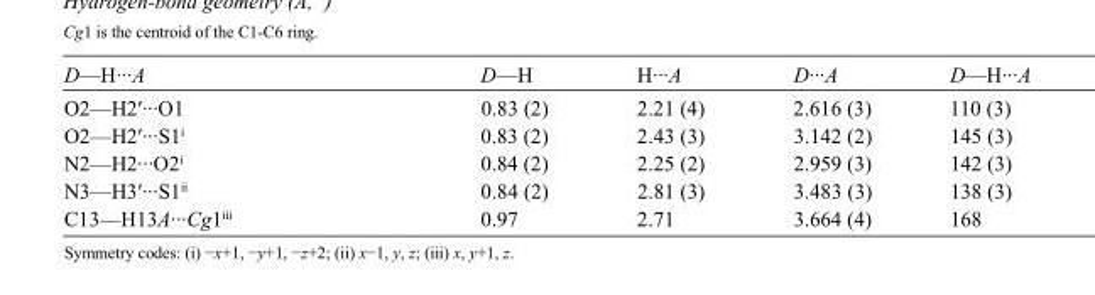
<table><tbody><tr><td>D—H···A</td><td>D—H</td><td>H···A</td><td>D···A</td><td>D—H···A</td></tr><tr><td>O2—H2′···O1</td><td>0.83 (2)</td><td>2.21 (4)</td><td>2.616 (3)</td><td>110 (3)</td></tr><tr><td>O2—H2′···S1<sup>i</sup></td><td>0.83 (2)</td><td>2.43 (3)</td><td>3.142 (2)</td><td>145 (3)</td></tr><tr><td>N2—H2···O2<sup>i</sup></td><td>0.84 (2)</td><td>2.25 (2)</td><td>2.959 (3)</td><td>142 (3)</td></tr><tr><td>N3—H3′···S1<sup>ii</sup></td><td>0.84 (2)</td><td>2.81 (3)</td><td>3.483 (3)</td><td>138 (3)</td></tr><tr><td>C13—H13A···Cg1<sup>iii</sup></td><td>0.97</td><td>2.71</td><td>3.664 (4)</td><td>168</td></tr></tbody></table>